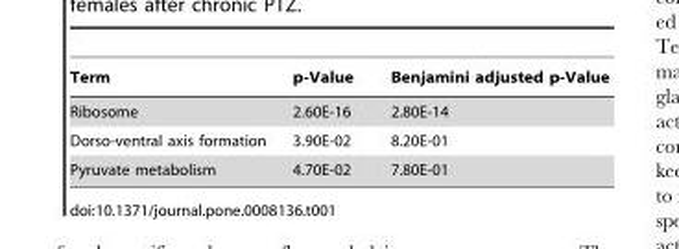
<table><thead><tr><td>Term</td><td>p-Value</td><td>Benjamini adjusted p-Value</td></tr></thead><tbody><tr><td>Ribosome</td><td>2.60E-16</td><td>2.80E-14</td></tr><tr><td>Dorso-ventral axis formation</td><td>3.90E-02</td><td>8.20E-01</td></tr><tr><td>Pyruvate metabolism</td><td>4.70E-02</td><td>7.80E-01</td></tr></tbody></table>